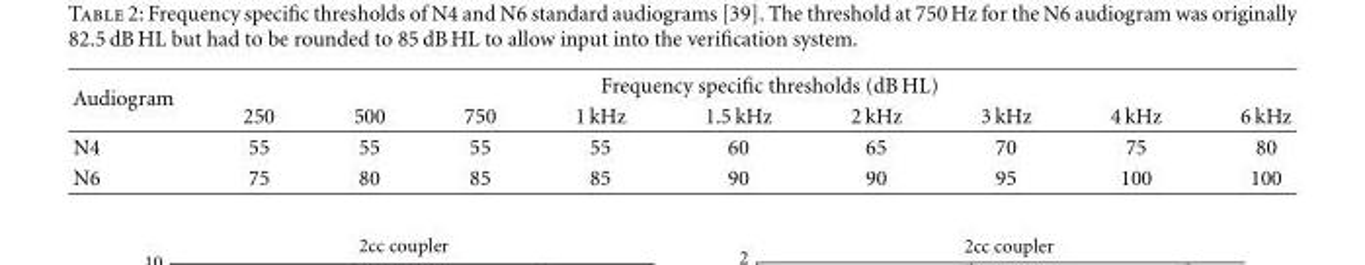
<table><thead><tr><td rowspan="2">Audiogram</td><td colspan="9">Frequency specific thresholds (dB HL)</td></tr><tr><td>250</td><td>500</td><td>750</td><td>1 kHz</td><td>1.5 kHz</td><td>2 kHz</td><td>3 kHz</td><td>4 kHz</td><td>6 kHz</td></tr></thead><tbody><tr><td>N4</td><td>55</td><td>55</td><td>55</td><td>55</td><td>60</td><td>65</td><td>70</td><td>75</td><td>80</td></tr><tr><td>N6</td><td>75</td><td>80</td><td>85</td><td>85</td><td>90</td><td>90</td><td>95</td><td>100</td><td>100</td></tr></tbody></table>